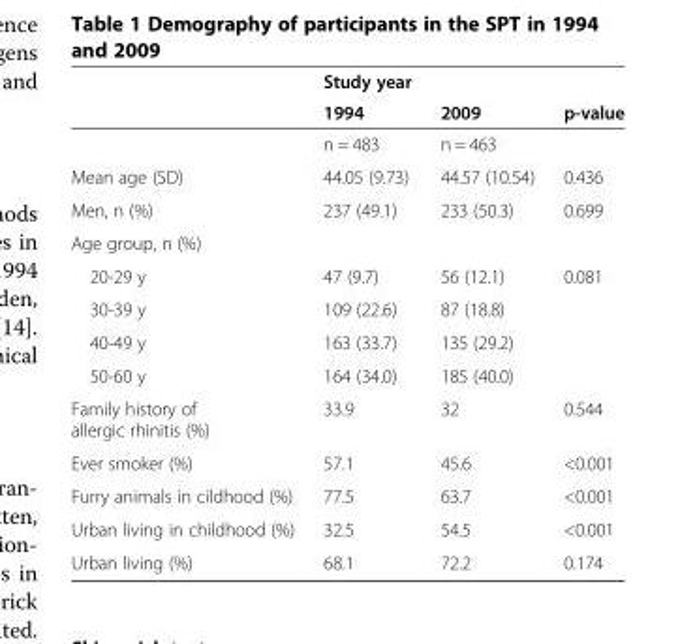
<table><thead><tr><td rowspan="2"></td><td rowspan="2">Study year 1994</td><td rowspan="2">2009</td><td rowspan="2">p-value</td></tr><tr></tr></thead><tbody><tr><td></td><td>n = 483</td><td>n = 463</td><td></td></tr><tr><td>Mean age (SD)</td><td>44.05 (9.73)</td><td>44.57 (10.54)</td><td>0.436</td></tr><tr><td>Men, n (%)</td><td>237 (49.1)</td><td>233 (50.3)</td><td>0.699</td></tr><tr><td colspan="4">Age group, n (%)</td></tr><tr><td>20-29 y</td><td>47 (9.7)</td><td>56 (12.1)</td><td rowspan="4">0.081</td></tr><tr><td>30-39 y</td><td>109 (22.6)</td><td>87 (18.8)</td></tr><tr><td>40-49 y</td><td>163 (33.7)</td><td>135 (29.2)</td></tr><tr><td>50-60 y</td><td>164 (34.0)</td><td>185 (40.0)</td></tr><tr><td>Family history of allergic rhinitis (%)</td><td>33.9</td><td>32</td><td>0.544</td></tr><tr><td>Ever smoker (%)</td><td>57.1</td><td>45.6</td><td>&lt;0.001</td></tr><tr><td>Furry animals in cildhood (%)</td><td>77.5</td><td>63.7</td><td>&lt;0.001</td></tr><tr><td>Urban living in childhood (%)</td><td>32.5</td><td>54.5</td><td>&lt;0.001</td></tr><tr><td>Urban living (%)</td><td>68.1</td><td>72.2</td><td>0.174</td></tr></tbody></table>